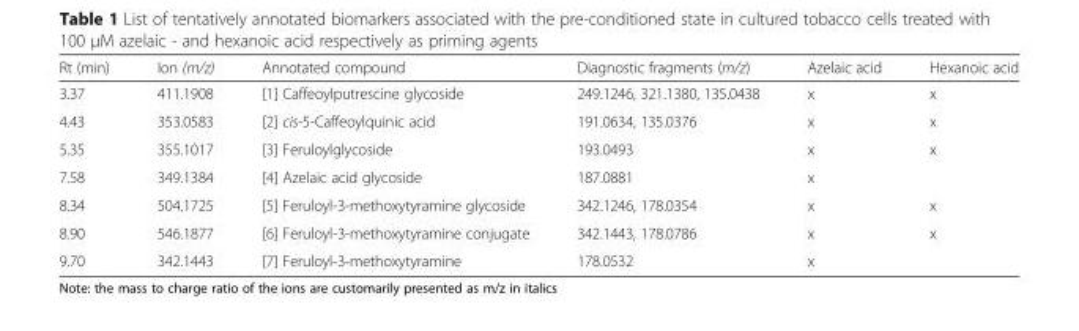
<table><thead><tr><td>Rt (min)</td><td>Ion (m/z)</td><td>Annotated compound</td><td>Diagnostic fragments (m/z)</td><td>Azelaic acid</td><td>Hexanoic acid</td></tr></thead><tbody><tr><td>3.37</td><td>411.1908</td><td>[1] Caffeoylputrescine glycoside</td><td>249.1246, 321.1380, 135.0438</td><td>x</td><td>x</td></tr><tr><td>4.43</td><td>353.0583</td><td>[2] cis-5-Caffeoylquinic acid</td><td>191.0634, 135.0376</td><td>x</td><td>x</td></tr><tr><td>5.35</td><td>355.1017</td><td>[3] Feruloylglycoside</td><td>193.0493</td><td>x</td><td>x</td></tr><tr><td>7.58</td><td>349.1384</td><td>[4] Azelaic acid glycoside</td><td>187.0881</td><td>x</td><td></td></tr><tr><td>8.34</td><td>504.1725</td><td>[5] Feruloyl-3-methoxytyramine glycoside</td><td>342.1246, 178.0354</td><td>x</td><td>x</td></tr><tr><td>8.90</td><td>546.1877</td><td>[6] Feruloyl-3-methoxytyramine conjugate</td><td>342.1443, 178.0786</td><td>x</td><td>x</td></tr><tr><td>9.70</td><td>342.1443</td><td>[7] Feruloyl-3-methoxytyramine</td><td>178.0532</td><td>x</td><td></td></tr></tbody></table>